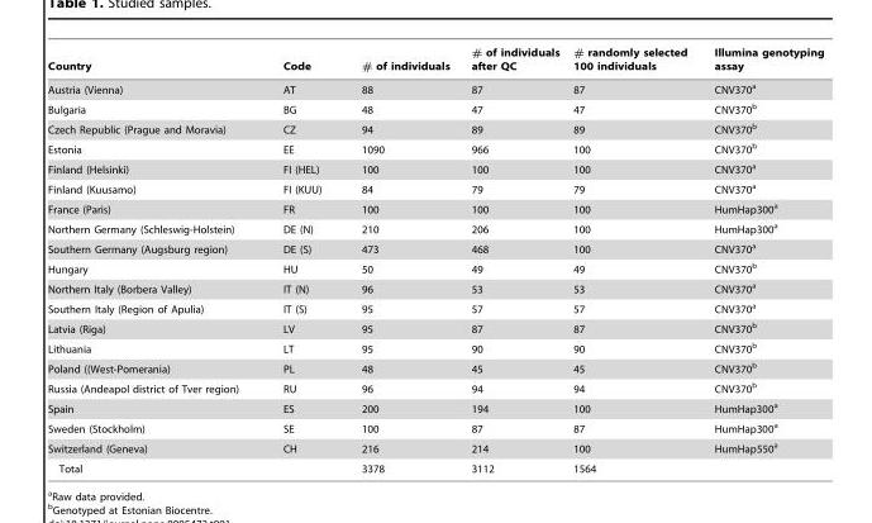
<table><thead><tr><td>Country</td><td>Code</td><td># of individuals</td><td># of individuals after QC</td><td># randomly selected 100 individuals</td><td>Illumina genotyping assay</td></tr></thead><tbody><tr><td>Austria (Vienna)</td><td>AT</td><td>88</td><td>87</td><td>87</td><td>CNV370<sup>a</sup></td></tr><tr><td>Bulgaria</td><td>BG</td><td>48</td><td>47</td><td>47</td><td>CNV370<sup>b</sup></td></tr><tr><td>Czech Republic (Prague and Moravia)</td><td>CZ</td><td>94</td><td>89</td><td>89</td><td>CNV370<sup>b</sup></td></tr><tr><td>Estonia</td><td>EE</td><td>1090</td><td>966</td><td>100</td><td>CNV370<sup>b</sup></td></tr><tr><td>Finland (Helsinki)</td><td>FI (HEL)</td><td>100</td><td>100</td><td>100</td><td>CNV370<sup>a</sup></td></tr><tr><td>Finland (Kuusamo)</td><td>FI (KUU)</td><td>84</td><td>79</td><td>79</td><td>CNV370<sup>a</sup></td></tr><tr><td>France (Paris)</td><td>FR</td><td>100</td><td>100</td><td>100</td><td>HumHap300<sup>a</sup></td></tr><tr><td>Northern Germany (Schleswig-Holstein)</td><td>DE (N)</td><td>210</td><td>206</td><td>100</td><td>HumHap300<sup>a</sup></td></tr><tr><td>Southern Germany (Augsburg region)</td><td>DE (S)</td><td>473</td><td>468</td><td>100</td><td>CNV370<sup>a</sup></td></tr><tr><td>Hungary</td><td>HU</td><td>50</td><td>49</td><td>49</td><td>CNV370<sup>b</sup></td></tr><tr><td>Northern Italy (Borbera Valley)</td><td>IT (N)</td><td>96</td><td>53</td><td>53</td><td>CNV370<sup>a</sup></td></tr><tr><td>Southern Italy (Region of Apulia)</td><td>IT (S)</td><td>95</td><td>57</td><td>57</td><td>CNV370<sup>a</sup></td></tr><tr><td>Latvia (Riga)</td><td>LV</td><td>95</td><td>87</td><td>87</td><td>CNV370<sup>b</sup></td></tr><tr><td>Lithuania</td><td>LT</td><td>95</td><td>90</td><td>90</td><td>CNV370<sup>b</sup></td></tr><tr><td>Poland ((West-Pomerania)</td><td>PL</td><td>48</td><td>45</td><td>45</td><td>CNV370<sup>b</sup></td></tr><tr><td>Russia (Andeapol district of Tver region)</td><td>RU</td><td>96</td><td>94</td><td>94</td><td>CNV370<sup>b</sup></td></tr><tr><td>Spain</td><td>ES</td><td>200</td><td>194</td><td>100</td><td>HumHap300<sup>a</sup></td></tr><tr><td>Sweden (Stockholm)</td><td>SE</td><td>100</td><td>87</td><td>87</td><td>HumHap300<sup>a</sup></td></tr><tr><td>Switzerland (Geneva)</td><td>CH</td><td>216</td><td>214</td><td>100</td><td>HumHap550<sup>a</sup></td></tr><tr><td>Total</td><td></td><td>3378</td><td>3112</td><td>1564</td><td></td></tr></tbody></table>